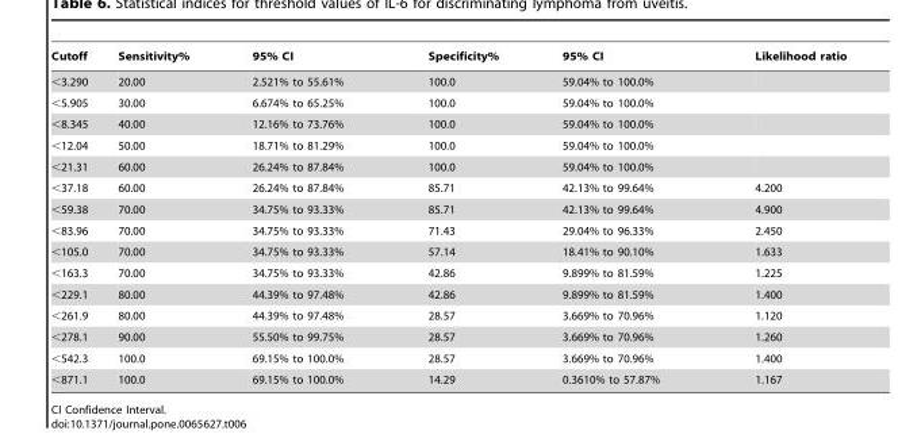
<table><thead><tr><td>Cutoff</td><td>Sensitivity%</td><td>95% CI</td><td>Specificity%</td><td>95% CI</td><td>Likelihood ratio</td></tr></thead><tbody><tr><td>&lt;3.290</td><td>20.00</td><td>2.521% to 55.61%</td><td>100.0</td><td>59.04% to 100.0%</td><td></td></tr><tr><td>&lt;5.905</td><td>30.00</td><td>6.674% to 65.25%</td><td>100.0</td><td>59.04% to 100.0%</td><td></td></tr><tr><td>&lt;8.345</td><td>40.00</td><td>12.16% to 73.76%</td><td>100.0</td><td>59.04% to 100.0%</td><td></td></tr><tr><td>&lt;12.04</td><td>50.00</td><td>18.71% to 81.29%</td><td>100.0</td><td>59.04% to 100.0%</td><td></td></tr><tr><td>&lt;21.31</td><td>60.00</td><td>26.24% to 87.84%</td><td>100.0</td><td>59.04% to 100.0%</td><td></td></tr><tr><td>&lt;37.18</td><td>60.00</td><td>26.24% to 87.84%</td><td>85.71</td><td>42.13% to 99.64%</td><td>4.200</td></tr><tr><td>&lt;59.38</td><td>70.00</td><td>34.75% to 93.33%</td><td>85.71</td><td>42.13% to 99.64%</td><td>4.900</td></tr><tr><td>&lt;83.96</td><td>70.00</td><td>34.75% to 93.33%</td><td>71.43</td><td>29.04% to 96.33%</td><td>2.450</td></tr><tr><td>&lt;105.0</td><td>70.00</td><td>34.75% to 93.33%</td><td>57.14</td><td>18.41% to 90.10%</td><td>1.633</td></tr><tr><td>&lt;163.3</td><td>70.00</td><td>34.75% to 93.33%</td><td>42.86</td><td>9.899% to 81.59%</td><td>1.225</td></tr><tr><td>&lt;229.1</td><td>80.00</td><td>44.39% to 97.48%</td><td>42.86</td><td>9.899% to 81.59%</td><td>1.400</td></tr><tr><td>&lt;261.9</td><td>80.00</td><td>44.39% to 97.48%</td><td>28.57</td><td>3.669% to 70.96%</td><td>1.120</td></tr><tr><td>&lt;278.1</td><td>90.00</td><td>55.50% to 99.75%</td><td>28.57</td><td>3.669% to 70.96%</td><td>1.260</td></tr><tr><td>&lt;542.3</td><td>100.0</td><td>69.15% to 100.0%</td><td>28.57</td><td>3.669% to 70.96%</td><td>1.400</td></tr><tr><td>&lt;871.1</td><td>100.0</td><td>69.15% to 100.0%</td><td>14.29</td><td>0.3610% to 57.87%</td><td>1.167</td></tr></tbody></table>